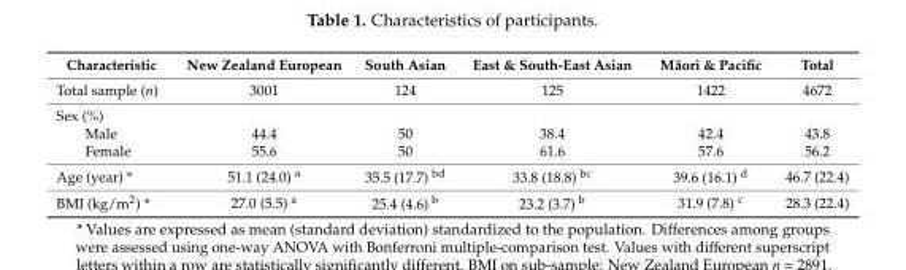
<table><thead><tr><td>Characteristic</td><td>New Zealand European</td><td>South Asian</td><td>East &amp; South-East Asian</td><td>M¯aori &amp; Pacific</td><td>Total</td></tr></thead><tbody><tr><td>Total sample (n)</td><td>3001</td><td>124</td><td>125</td><td>1422</td><td>4672</td></tr><tr><td colspan="6">Sex (%)</td></tr><tr><td>Male</td><td>44.4</td><td>50</td><td>38.4</td><td>42.4</td><td>43.8</td></tr><tr><td>Female</td><td>55.6</td><td>50</td><td>61.6</td><td>57.6</td><td>56.2</td></tr><tr><td>Age (year) *</td><td>51.1 (24.0) <sup>a</sup></td><td>35.5 (17.7) <sup>bd</sup></td><td>33.8 (18.8) <sup>bc</sup></td><td>39.6 (16.1) <sup>d</sup></td><td>46.7 (22.4)</td></tr><tr><td>BMI (kg/m<sup>2</sup>) *</td><td>27.0 (5.5) <sup>a</sup></td><td>25.4 (4.6) <sup>b</sup></td><td>23.2 (3.7) <sup>b</sup></td><td>31.9 (7.8) <sup>c</sup></td><td>28.3 (22.4)</td></tr></tbody></table>